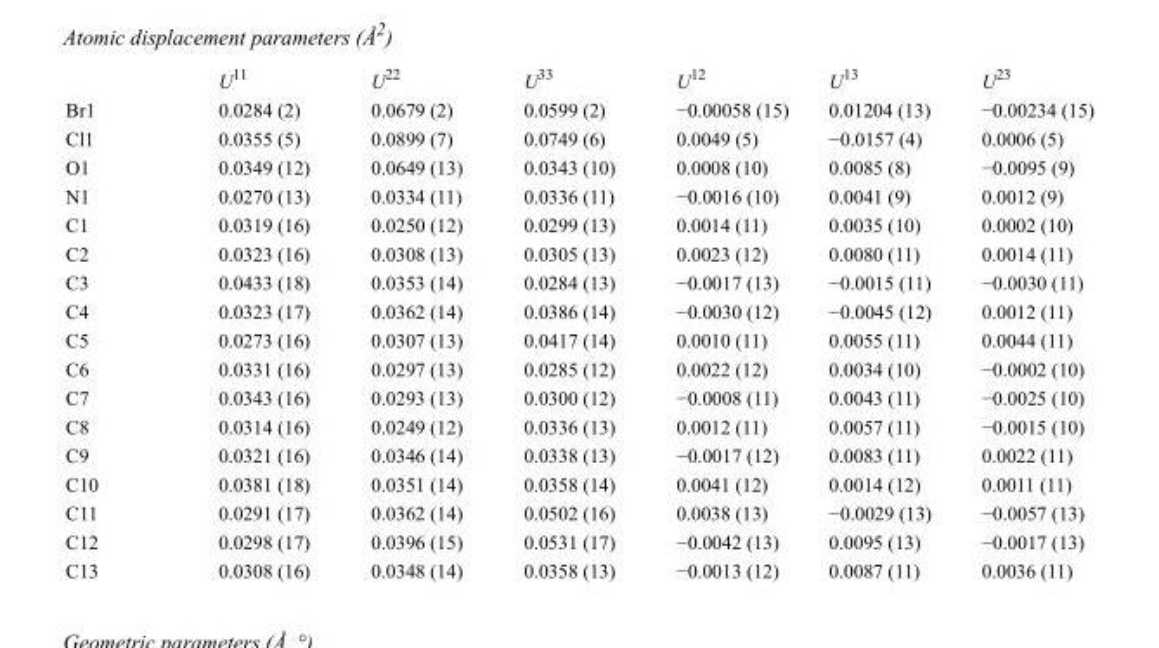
<table><thead><tr><td></td><td>U<sup>11</sup></td><td>U<sup>22</sup></td><td>U<sup>33</sup></td><td>U<sup>12</sup></td><td>U<sup>13</sup></td><td>U<sup>23</sup></td></tr></thead><tbody><tr><td>Br1</td><td>0.0284 (2)</td><td>0.0679 (2)</td><td>0.0599 (2)</td><td>−0.00058 (15)</td><td>0.01204 (13)</td><td>−0.00234 (15)</td></tr><tr><td>Cl1</td><td>0.0355 (5)</td><td>0.0899 (7)</td><td>0.0749 (6)</td><td>0.0049 (5)</td><td>−0.0157 (4)</td><td>0.0006 (5)</td></tr><tr><td>O1</td><td>0.0349 (12)</td><td>0.0649 (13)</td><td>0.0343 (10)</td><td>0.0008 (10)</td><td>0.0085 (8)</td><td>−0.0095 (9)</td></tr><tr><td>N1</td><td>0.0270 (13)</td><td>0.0334 (11)</td><td>0.0336 (11)</td><td>−0.0016 (10)</td><td>0.0041 (9)</td><td>0.0012 (9)</td></tr><tr><td>C1</td><td>0.0319 (16)</td><td>0.0250 (12)</td><td>0.0299 (13)</td><td>0.0014 (11)</td><td>0.0035 (10)</td><td>0.0002 (10)</td></tr><tr><td>C2</td><td>0.0323 (16)</td><td>0.0308 (13)</td><td>0.0305 (13)</td><td>0.0023 (12)</td><td>0.0080 (11)</td><td>0.0014 (11)</td></tr><tr><td>C3</td><td>0.0433 (18)</td><td>0.0353 (14)</td><td>0.0284 (13)</td><td>−0.0017 (13)</td><td>−0.0015 (11)</td><td>−0.0030 (11)</td></tr><tr><td>C4</td><td>0.0323 (17)</td><td>0.0362 (14)</td><td>0.0386 (14)</td><td>−0.0030 (12)</td><td>−0.0045 (12)</td><td>0.0012 (11)</td></tr><tr><td>C5</td><td>0.0273 (16)</td><td>0.0307 (13)</td><td>0.0417 (14)</td><td>0.0010 (11)</td><td>0.0055 (11)</td><td>0.0044 (11)</td></tr><tr><td>C6</td><td>0.0331 (16)</td><td>0.0297 (13)</td><td>0.0285 (12)</td><td>0.0022 (12)</td><td>0.0034 (10)</td><td>−0.0002 (10)</td></tr><tr><td>C7</td><td>0.0343 (16)</td><td>0.0293 (13)</td><td>0.0300 (12)</td><td>−0.0008 (11)</td><td>0.0043 (11)</td><td>−0.0025 (10)</td></tr><tr><td>C8</td><td>0.0314 (16)</td><td>0.0249 (12)</td><td>0.0336 (13)</td><td>0.0012 (11)</td><td>0.0057 (11)</td><td>−0.0015 (10)</td></tr><tr><td>C9</td><td>0.0321 (16)</td><td>0.0346 (14)</td><td>0.0338 (13)</td><td>−0.0017 (12)</td><td>0.0083 (11)</td><td>0.0022 (11)</td></tr><tr><td>C10</td><td>0.0381 (18)</td><td>0.0351 (14)</td><td>0.0358 (14)</td><td>0.0041 (12)</td><td>0.0014 (12)</td><td>0.0011 (11)</td></tr><tr><td>C11</td><td>0.0291 (17)</td><td>0.0362 (14)</td><td>0.0502 (16)</td><td>0.0038 (13)</td><td>−0.0029 (13)</td><td>−0.0057 (13)</td></tr><tr><td>C12</td><td>0.0298 (17)</td><td>0.0396 (15)</td><td>0.0531 (17)</td><td>−0.0042 (13)</td><td>0.0095 (13)</td><td>−0.0017 (13)</td></tr><tr><td>C13</td><td>0.0308 (16)</td><td>0.0348 (14)</td><td>0.0358 (13)</td><td>−0.0013 (12)</td><td>0.0087 (11)</td><td>0.0036 (11)</td></tr></tbody></table>